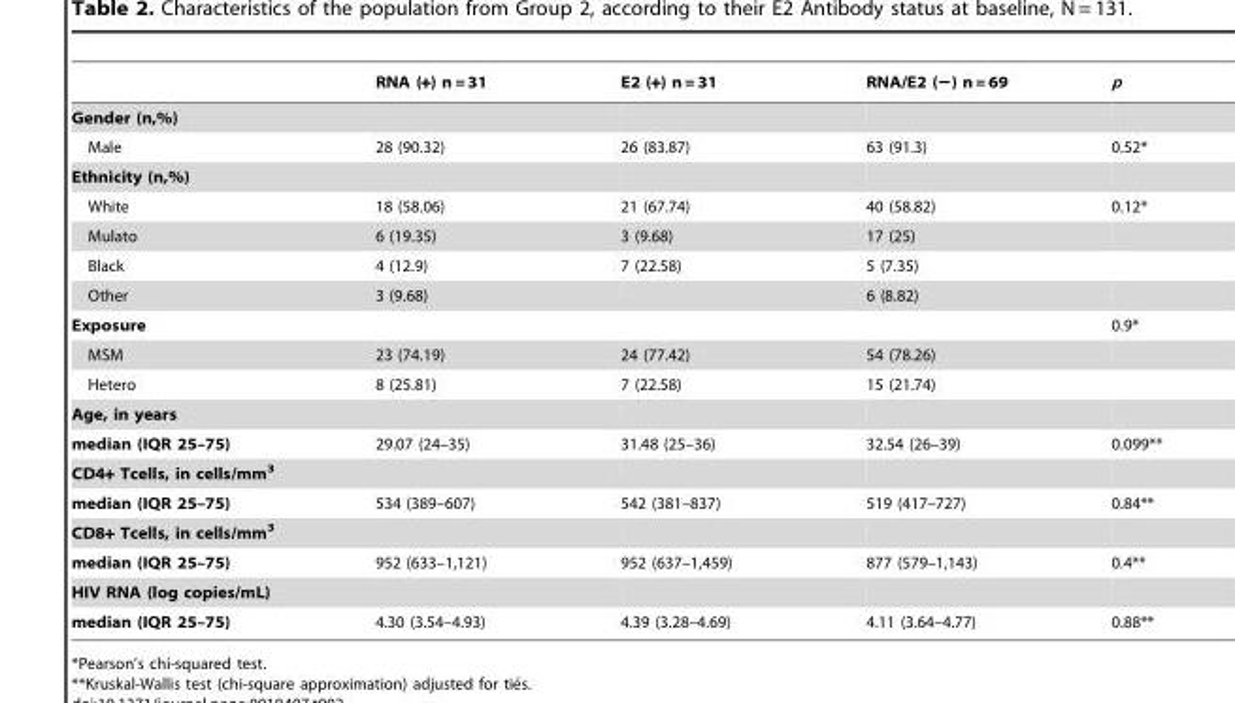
<table><thead><tr><td></td><td>RNA (+) n = 31</td><td>E2 (+) n = 31</td><td>RNA/E2 (−) n = 69</td><td>p</td></tr></thead><tbody><tr><td colspan="5">Gender (n,%)</td></tr><tr><td>Male</td><td>28 (90.32)</td><td>26 (83.87)</td><td>63 (91.3)</td><td>0.52*</td></tr><tr><td colspan="5">Ethnicity (n,%)</td></tr><tr><td>White</td><td>18 (58.06)</td><td>21 (67.74)</td><td>40 (58.82)</td><td>0.12*</td></tr><tr><td>Mulato</td><td>6 (19.35)</td><td>3 (9.68)</td><td>17 (25)</td><td></td></tr><tr><td>Black</td><td>4 (12.9)</td><td>7 (22.58)</td><td>5 (7.35)</td><td></td></tr><tr><td>Other</td><td>3 (9.68)</td><td></td><td>6 (8.82)</td><td></td></tr><tr><td>Exposure</td><td></td><td></td><td></td><td>0.9*</td></tr><tr><td>MSM</td><td>23 (74.19)</td><td>24 (77.42)</td><td>54 (78.26)</td><td></td></tr><tr><td>Hetero</td><td>8 (25.81)</td><td>7 (22.58)</td><td>15 (21.74)</td><td></td></tr><tr><td colspan="5">Age, in years</td></tr><tr><td>median (IQR 25–75)</td><td>29.07 (24–35)</td><td>31.48 (25–36)</td><td>32.54 (26–39)</td><td>0.099**</td></tr><tr><td colspan="5">CD4+ Tcells, in cells/mm<sup>3</sup></td></tr><tr><td>median (IQR 25–75)</td><td>534 (389–607)</td><td>542 (381–837)</td><td>519 (417–727)</td><td>0.84**</td></tr><tr><td colspan="5">CD8+ Tcells, in cells/mm<sup>3</sup></td></tr><tr><td>median (IQR 25–75)</td><td>952 (633–1,121)</td><td>952 (637–1,459)</td><td>877 (579–1,143)</td><td>0.4**</td></tr><tr><td colspan="5">HIV RNA (log copies/mL)</td></tr><tr><td>median (IQR 25–75)</td><td>4.30 (3.54–4.93)</td><td>4.39 (3.28–4.69)</td><td>4.11 (3.64–4.77)</td><td>0.88**</td></tr></tbody></table>